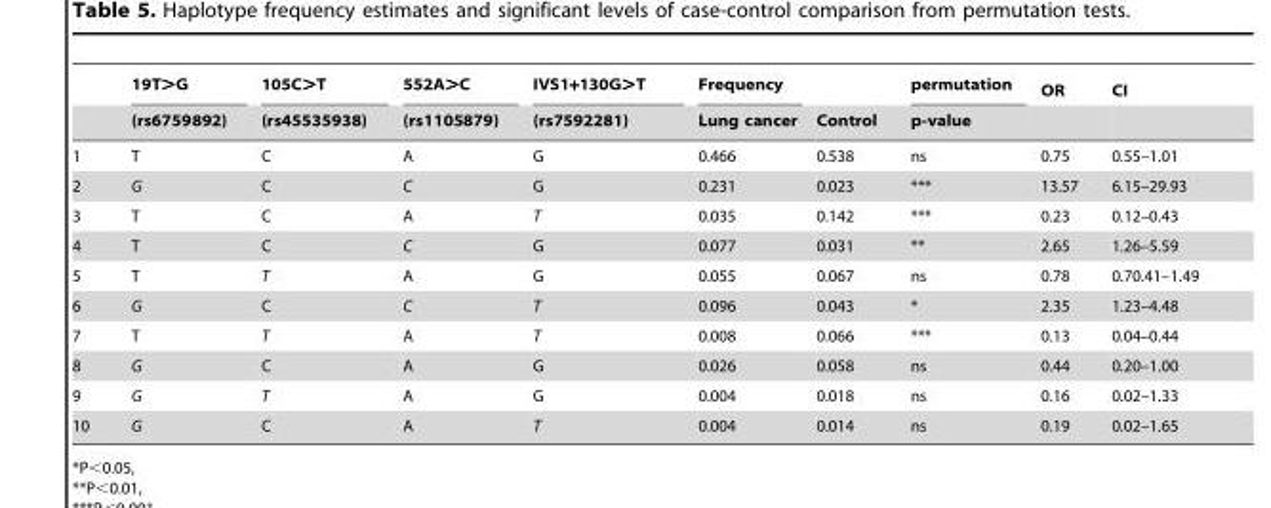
<table><thead><tr><td rowspan="2"></td><td rowspan="2">19T&gt;G (rs6759892)</td><td rowspan="2">105C&gt;T (rs45535938)</td><td rowspan="2">552A&gt;C (rs1105879)</td><td rowspan="2">IVS1+130G&gt;T (rs7592281)</td><td rowspan="2">Frequency Lung cancer</td><td rowspan="2">Control</td><td rowspan="2">permutation p-value</td><td rowspan="2">OR</td><td rowspan="2">CI</td></tr><tr></tr></thead><tbody><tr><td>1</td><td>T</td><td>C</td><td>A</td><td>G</td><td>0.466</td><td>0.538</td><td>ns</td><td>0.75</td><td>0.55–1.01</td></tr><tr><td>2</td><td>G</td><td>C</td><td>C</td><td>G</td><td>0.231</td><td>0.023</td><td>***</td><td>13.57</td><td>6.15–29.93</td></tr><tr><td>3</td><td>T</td><td>C</td><td>A</td><td>T</td><td>0.035</td><td>0.142</td><td>***</td><td>0.23</td><td>0.12–0.43</td></tr><tr><td>4</td><td>T</td><td>C</td><td>C</td><td>G</td><td>0.077</td><td>0.031</td><td>**</td><td>2.65</td><td>1.26–5.59</td></tr><tr><td>5</td><td>T</td><td>T</td><td>A</td><td>G</td><td>0.055</td><td>0.067</td><td>ns</td><td>0.78</td><td>0.70.41–1.49</td></tr><tr><td>6</td><td>G</td><td>C</td><td>C</td><td>T</td><td>0.096</td><td>0.043</td><td>*</td><td>2.35</td><td>1.23–4.48</td></tr><tr><td>7</td><td>T</td><td>T</td><td>A</td><td>T</td><td>0.008</td><td>0.066</td><td>***</td><td>0.13</td><td>0.04–0.44</td></tr><tr><td>8</td><td>G</td><td>C</td><td>A</td><td>G</td><td>0.026</td><td>0.058</td><td>ns</td><td>0.44</td><td>0.20–1.00</td></tr><tr><td>9</td><td>G</td><td>T</td><td>A</td><td>G</td><td>0.004</td><td>0.018</td><td>ns</td><td>0.16</td><td>0.02–1.33</td></tr><tr><td>10</td><td>G</td><td>C</td><td>A</td><td>T</td><td>0.004</td><td>0.014</td><td>ns</td><td>0.19</td><td>0.02–1.65</td></tr></tbody></table>